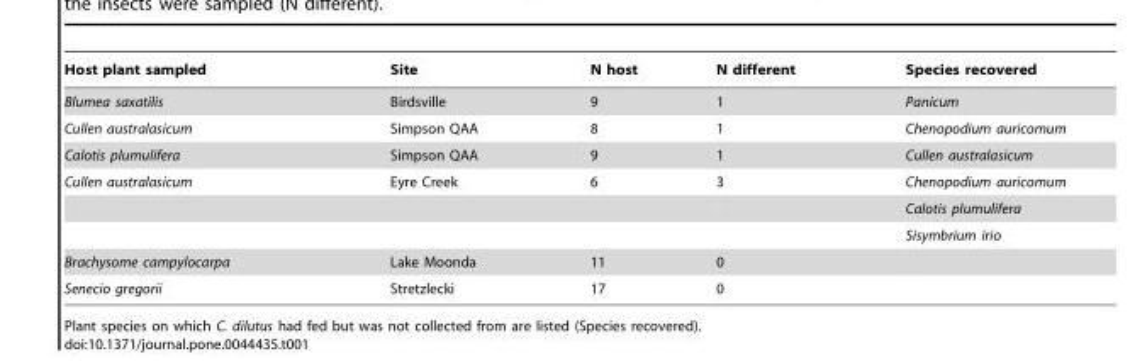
<table><thead><tr><td>Host plant sampled</td><td>Site</td><td>N host</td><td>N different</td><td>Species recovered</td></tr></thead><tbody><tr><td>Blumea saxatilis</td><td>Birdsville</td><td>9</td><td>1</td><td>Panicum</td></tr><tr><td>Cullen australasicum</td><td>Simpson QAA</td><td>8</td><td>1</td><td>Chenopodium auricomum</td></tr><tr><td>Calotis plumulifera</td><td>Simpson QAA</td><td>9</td><td>1</td><td>Cullen australasicum</td></tr><tr><td rowspan="3">Cullen australasicum</td><td>Eyre Creek</td><td>6</td><td>3</td><td>Chenopodium auricomum</td></tr><tr><td></td><td></td><td></td><td>Calotis plumulifera</td></tr><tr><td></td><td></td><td></td><td>Sisymbrium irio</td></tr><tr><td>Brachysome campylocarpa</td><td>Lake Moonda</td><td>11</td><td>0</td><td></td></tr><tr><td>Senecio gregorii</td><td>Stretzlecki</td><td>17</td><td>0</td><td></td></tr></tbody></table>